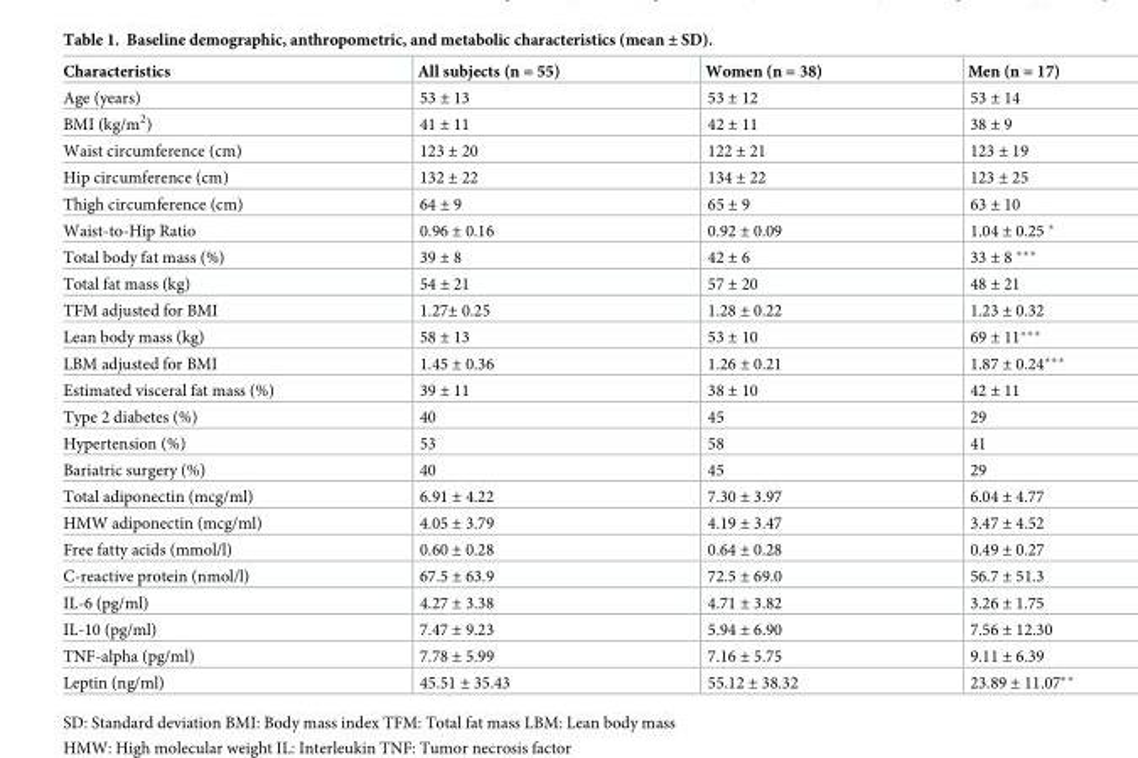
<table><thead><tr><td>Characteristics</td><td>All subjects (n = 55)</td><td>Women (n = 38)</td><td>Men (n = 17)</td></tr></thead><tbody><tr><td>Age (years)</td><td>53 ± 13</td><td>53 ± 12</td><td>53 ± 14</td></tr><tr><td>BMI (kg/m<sup>2</sup>)</td><td>41 ± 11</td><td>42 ± 11</td><td>38 ± 9</td></tr><tr><td>Waist circumference (cm)</td><td>123 ± 20</td><td>122 ± 21</td><td>123 ± 19</td></tr><tr><td>Hip circumference (cm)</td><td>132 ± 22</td><td>134 ± 22</td><td>123 ± 25</td></tr><tr><td>Thigh circumference (cm)</td><td>64 ± 9</td><td>65 ± 9</td><td>63 ± 10</td></tr><tr><td>Waist-to-Hip Ratio</td><td>0.96 ± 0.16</td><td>0.92 ± 0.09</td><td>1.04 ± 0.25 *</td></tr><tr><td>Total body fat mass (%)</td><td>39 ± 8</td><td>42 ± 6</td><td>33 ± 8 ***</td></tr><tr><td>Total fat mass (kg)</td><td>54 ± 21</td><td>57 ± 20</td><td>48 ± 21</td></tr><tr><td>TFM adjusted for BMI</td><td>1.27± 0.25</td><td>1.28 ± 0.22</td><td>1.23 ± 0.32</td></tr><tr><td>Lean body mass (kg)</td><td>58 ± 13</td><td>53 ± 10</td><td>69 ± 11***</td></tr><tr><td>LBM adjusted for BMI</td><td>1.45 ± 0.36</td><td>1.26 ± 0.21</td><td>1.87 ± 0.24***</td></tr><tr><td>Estimated visceral fat mass (%)</td><td>39 ± 11</td><td>38 ± 10</td><td>42 ± 11</td></tr><tr><td>Type 2 diabetes (%)</td><td>40</td><td>45</td><td>29</td></tr><tr><td>Hypertension (%)</td><td>53</td><td>58</td><td>41</td></tr><tr><td>Bariatric surgery (%)</td><td>40</td><td>45</td><td>29</td></tr><tr><td>Total adiponectin (mcg/ml)</td><td>6.91 ± 4.22</td><td>7.30 ± 3.97</td><td>6.04 ± 4.77</td></tr><tr><td>HMW adiponectin (mcg/ml)</td><td>4.05 ± 3.79</td><td>4.19 ± 3.47</td><td>3.47 ± 4.52</td></tr><tr><td>Free fatty acids (mmol/l)</td><td>0.60 ± 0.28</td><td>0.64 ± 0.28</td><td>0.49 ± 0.27</td></tr><tr><td>C-reactive protein (nmol/l)</td><td>67.5 ± 63.9</td><td>72.5 ± 69.0</td><td>56.7 ± 51.3</td></tr><tr><td>IL-6 (pg/ml)</td><td>4.27 ± 3.38</td><td>4.71 ± 3.82</td><td>3.26 ± 1.75</td></tr><tr><td>IL-10 (pg/ml)</td><td>7.47 ± 9.23</td><td>5.94 ± 6.90</td><td>7.56 ± 12.30</td></tr><tr><td>TNF-alpha (pg/ml)</td><td>7.78 ± 5.99</td><td>7.16 ± 5.75</td><td>9.11 ± 6.39</td></tr><tr><td>Leptin (ng/ml)</td><td>45.51 ± 35.43</td><td>55.12 ± 38.32</td><td>23.89 ± 11.07**</td></tr></tbody></table>